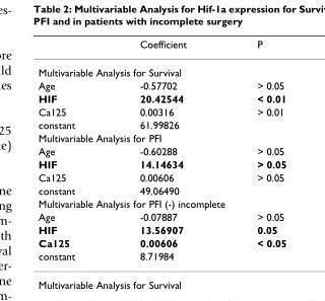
<table><thead><tr><td></td><td>Coefficient</td><td>P</td></tr></thead><tbody><tr><td colspan="3">Multivariable Analysis for Survival</td></tr><tr><td>Age</td><td>-0.57702</td><td>&gt; 0.05</td></tr><tr><td>HIF</td><td>20.42544</td><td>&lt; 0.01</td></tr><tr><td>Ca125</td><td>0.00316</td><td>&gt; 0.01</td></tr><tr><td>constant</td><td>61.99826</td><td></td></tr><tr><td colspan="3">Multivariable Analysis for PFI</td></tr><tr><td>Age</td><td>-0.60288</td><td>&gt; 0.05</td></tr><tr><td>HIF</td><td>14.14634</td><td>&gt; 0.05</td></tr><tr><td>Ca125</td><td>0.00606</td><td>&gt; 0.05</td></tr><tr><td>constant</td><td>49.06490</td><td></td></tr><tr><td colspan="3">Multivariable Analysis for PFI (-) incomplete</td></tr><tr><td>Age</td><td>-0.07887</td><td>&gt; 0.05</td></tr><tr><td>HIF</td><td>13.56907</td><td>0.05</td></tr><tr><td>Ca125</td><td>0.00606</td><td>&lt; 0.05</td></tr><tr><td>constant</td><td>8.71984</td><td></td></tr></tbody></table>